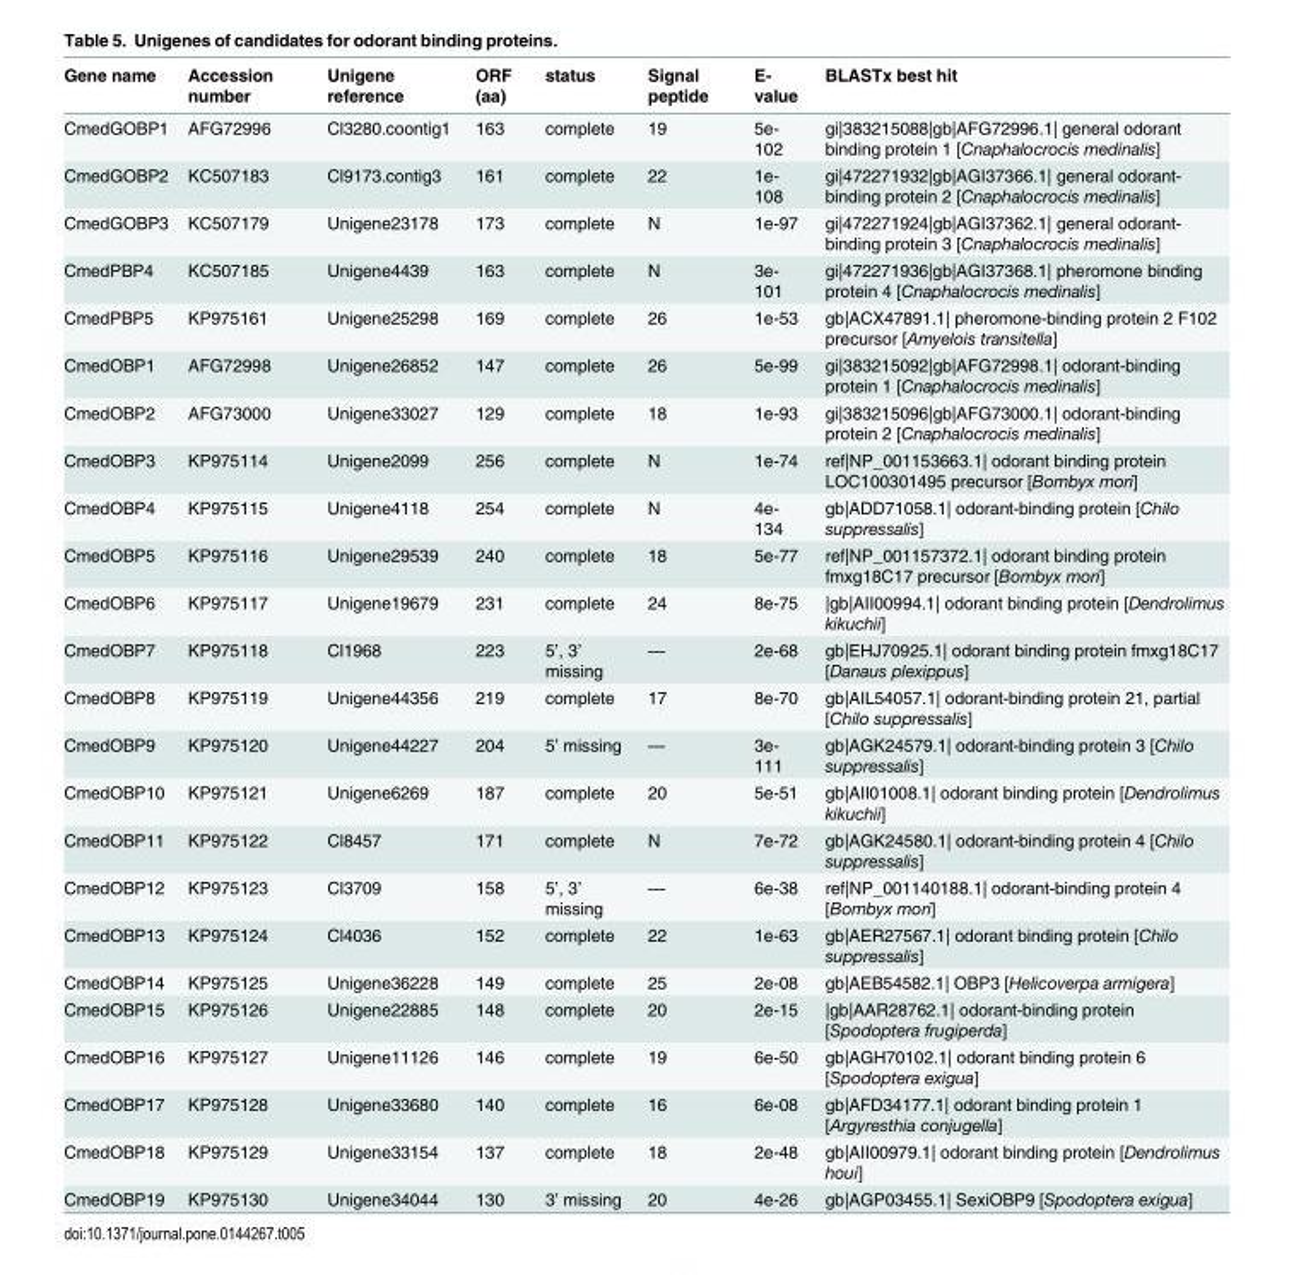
<table><thead><tr><td>Gene name</td><td>Accession number</td><td>Unigene reference</td><td>ORF (aa)</td><td>status</td><td>Signal peptide</td><td>E- value</td><td>BLASTx best hit</td></tr></thead><tbody><tr><td>CmedGOBP1</td><td>AFG72996</td><td>Cl3280.coontig1</td><td>163</td><td>complete</td><td>19</td><td>5e- 102</td><td>gi|383215088|gb|AFG72996.1| general odorant binding protein 1 [Cnaphalocrocis medinalis]</td></tr><tr><td>CmedGOBP2</td><td>KC507183</td><td>Cl9173.contig3</td><td>161</td><td>complete</td><td>22</td><td>1e- 108</td><td>gi|472271932|gb|AGI37366.1| general odorant- binding protein 2 [Cnaphalocrocis medinalis]</td></tr><tr><td>CmedGOBP3</td><td>KC507179</td><td>Unigene23178</td><td>173</td><td>complete</td><td>N</td><td>1e-97</td><td>gi|472271924|gb|AGI37362.1| general odorant- binding protein 3 [Cnaphalocrocis medinalis]</td></tr><tr><td>CmedPBP4</td><td>KC507185</td><td>Unigene4439</td><td>163</td><td>complete</td><td>N</td><td>3e- 101</td><td>gi|472271936|gb|AGI37368.1| pheromone binding protein 4 [Cnaphalocrocis medinalis]</td></tr><tr><td>CmedPBP5</td><td>KP975161</td><td>Unigene25298</td><td>169</td><td>complete</td><td>26</td><td>1e-53</td><td>gb|ACX47891.1| pheromone-binding protein 2 F102 precursor [Amyelois transitella]</td></tr><tr><td>CmedOBP1</td><td>AFG72998</td><td>Unigene26852</td><td>147</td><td>complete</td><td>26</td><td>5e-99</td><td>gi|383215092|gb|AFG72998.1| odorant-binding protein 1 [Cnaphalocrocis medinalis]</td></tr><tr><td>CmedOBP2</td><td>AFG73000</td><td>Unigene33027</td><td>129</td><td>complete</td><td>18</td><td>1e-93</td><td>gi|383215096|gb|AFG73000.1| odorant-binding protein 2 [Cnaphalocrocis medinalis]</td></tr><tr><td>CmedOBP3</td><td>KP975114</td><td>Unigene2099</td><td>256</td><td>complete</td><td>N</td><td>1e-74</td><td>ref|NP_001153663.1| odorant binding protein LOC100301495 precursor [Bombyx mori]</td></tr><tr><td>CmedOBP4</td><td>KP975115</td><td>Unigene4118</td><td>254</td><td>complete</td><td>N</td><td>4e- 134</td><td>gb|ADD71058.1| odorant-binding protein [Chilo suppressalis]</td></tr><tr><td>CmedOBP5</td><td>KP975116</td><td>Unigene29539</td><td>240</td><td>complete</td><td>18</td><td>5e-77</td><td>ref|NP_001157372.1| odorant binding protein fmxg18C17 precursor [Bombyx mori]</td></tr><tr><td>CmedOBP6</td><td>KP975117</td><td>Unigene19679</td><td>231</td><td>complete</td><td>24</td><td>8e-75</td><td>|gb|AII00994.1| odorant binding protein [Dendrolimus kikuchii]</td></tr><tr><td>CmedOBP7</td><td>KP975118</td><td>Cl1968</td><td>223</td><td>5’, 3’ missing</td><td>—</td><td>2e-68</td><td>gb|EHJ70925.1| odorant binding protein fmxg18C17 [Danaus plexippus]</td></tr><tr><td>CmedOBP8</td><td>KP975119</td><td>Unigene44356</td><td>219</td><td>complete</td><td>17</td><td>8e-70</td><td>gb|AIL54057.1| odorant-binding protein 21, partial [Chilo suppressalis]</td></tr><tr><td>CmedOBP9</td><td>KP975120</td><td>Unigene44227</td><td>204</td><td>5’ missing</td><td>—</td><td>3e- 111</td><td>gb|AGK24579.1| odorant-binding protein 3 [Chilo suppressalis]</td></tr><tr><td>CmedOBP10</td><td>KP975121</td><td>Unigene6269</td><td>187</td><td>complete</td><td>20</td><td>5e-51</td><td>gb|AII01008.1| odorant binding protein [Dendrolimus kikuchii]</td></tr><tr><td>CmedOBP11</td><td>KP975122</td><td>Cl8457</td><td>171</td><td>complete</td><td>N</td><td>7e-72</td><td>gb|AGK24580.1| odorant-binding protein 4 [Chilo suppressalis]</td></tr><tr><td>CmedOBP12</td><td>KP975123</td><td>Cl3709</td><td>158</td><td>5’, 3’ missing</td><td>—</td><td>6e-38</td><td>ref|NP_001140188.1| odorant-binding protein 4 [Bombyx mori]</td></tr><tr><td>CmedOBP13</td><td>KP975124</td><td>Cl4036</td><td>152</td><td>complete</td><td>22</td><td>1e-63</td><td>gb|AER27567.1| odorant binding protein [Chilo suppressalis]</td></tr><tr><td>CmedOBP14</td><td>KP975125</td><td>Unigene36228</td><td>149</td><td>complete</td><td>25</td><td>2e-08</td><td>gb|AEB54582.1| OBP3 [Helicoverpa armigera]</td></tr><tr><td>CmedOBP15</td><td>KP975126</td><td>Unigene22885</td><td>148</td><td>complete</td><td>20</td><td>2e-15</td><td>|gb|AAR28762.1| odorant-binding protein [Spodoptera frugiperda]</td></tr><tr><td>CmedOBP16</td><td>KP975127</td><td>Unigene11126</td><td>146</td><td>complete</td><td>19</td><td>6e-50</td><td>gb|AGH70102.1| odorant binding protein 6 [Spodoptera exigua]</td></tr><tr><td>CmedOBP17</td><td>KP975128</td><td>Unigene33680</td><td>140</td><td>complete</td><td>16</td><td>6e-08</td><td>gb|AFD34177.1| odorant binding protein 1 [Argyresthia conjugella]</td></tr><tr><td>CmedOBP18</td><td>KP975129</td><td>Unigene33154</td><td>137</td><td>complete</td><td>18</td><td>2e-48</td><td>gb|AII00979.1| odorant binding protein [Dendrolimus houi]</td></tr><tr><td>CmedOBP19</td><td>KP975130</td><td>Unigene34044</td><td>130</td><td>3’ missing</td><td>20</td><td>4e-26</td><td>gb|AGP03455.1| SexiOBP9 [Spodoptera exigua]</td></tr></tbody></table>